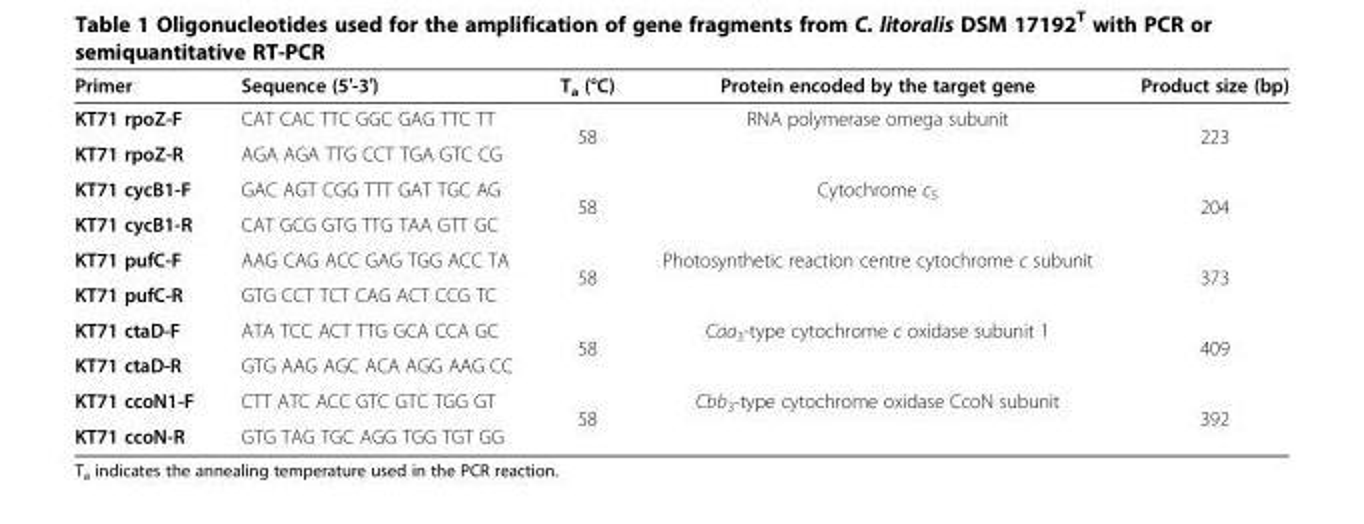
<table><thead><tr><td>Primer</td><td>Sequence (5′-3′)</td><td>T<sub>a</sub> (°C)</td><td>Protein encoded by the target gene</td><td>Product size (bp)</td></tr></thead><tbody><tr><td>KT71 rpoZ-F</td><td>CAT CAC TTC GGC GAG TTC TT</td><td rowspan="2">58</td><td rowspan="2">RNA polymerase omega subunit</td><td rowspan="2">223</td></tr><tr><td>KT71 rpoZ-R</td><td>AGA AGA TTG CCT TGA GTC CG</td></tr><tr><td>KT71 cycB1-F</td><td>GAC AGT CGG TTT GAT TGC AG</td><td rowspan="2">58</td><td rowspan="2">Cytochrome c<sub>5</sub></td><td rowspan="2">204</td></tr><tr><td>KT71 cycB1-R</td><td>CAT GCG GTG TTG TAA GTT GC</td></tr><tr><td>KT71 pufC-F</td><td>AAG CAG ACC GAG TGG ACC TA</td><td rowspan="2">58</td><td rowspan="2">Photosynthetic reaction centre cytochrome c subunit</td><td rowspan="2">373</td></tr><tr><td>KT71 pufC-R</td><td>GTG CCT TCT CAG ACT CCG TC</td></tr><tr><td>KT71 ctaD-F</td><td>ATA TCC ACT TTG GCA CCA GC</td><td rowspan="2">58</td><td rowspan="2">Caa<sub>3</sub>-type cytochrome c oxidase subunit 1</td><td rowspan="2">409</td></tr><tr><td>KT71 ctaD-R</td><td>GTG AAG AGC ACA AGG AAG CC</td></tr><tr><td>KT71 ccoN1-F</td><td>CTT ATC ACC GTC GTC TGG GT</td><td rowspan="2">58</td><td rowspan="2">Cbb<sub>3</sub>-type cytochrome oxidase CcoN subunit</td><td rowspan="2">392</td></tr><tr><td>KT71 ccoN-R</td><td>GTG TAG TGC AGG TGG TGT GG</td></tr></tbody></table>